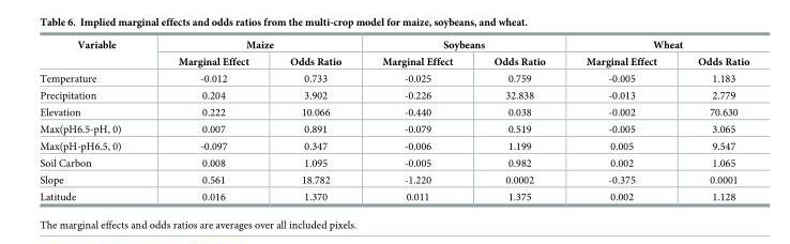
<table><thead><tr><td rowspan="2">Variable</td><td colspan="2">Maize</td><td colspan="2">Soybeans</td><td colspan="2">Wheat</td></tr><tr><td>Marginal Effect</td><td>Odds Ratio</td><td>Marginal Effect</td><td>Odds Ratio</td><td>Marginal Effect</td><td>Odds Ratio</td></tr></thead><tbody><tr><td>Temperature</td><td>-0.012</td><td>0.733</td><td>-0.025</td><td>0.759</td><td>-0.005</td><td>1.183</td></tr><tr><td>Precipitation</td><td>0.204</td><td>3.902</td><td>-0.226</td><td>32.838</td><td>-0.013</td><td>2.779</td></tr><tr><td>Elevation</td><td>0.222</td><td>10.066</td><td>-0.440</td><td>0.038</td><td>-0.002</td><td>70.630</td></tr><tr><td>Max(pH6.5-pH, 0)</td><td>0.007</td><td>0.891</td><td>-0.079</td><td>0.519</td><td>-0.005</td><td>3.065</td></tr><tr><td>Max(pH-pH6.5, 0)</td><td>-0.097</td><td>0.347</td><td>-0.006</td><td>1.199</td><td>0.005</td><td>9.547</td></tr><tr><td>Soil Carbon</td><td>0.008</td><td>1.095</td><td>-0.005</td><td>0.982</td><td>0.002</td><td>1.065</td></tr><tr><td>Slope</td><td>0.561</td><td>18.782</td><td>-1.220</td><td>0.0002</td><td>-0.375</td><td>0.0001</td></tr><tr><td>Latitude</td><td>0.016</td><td>1.370</td><td>0.011</td><td>1.375</td><td>0.002</td><td>1.128</td></tr></tbody></table>